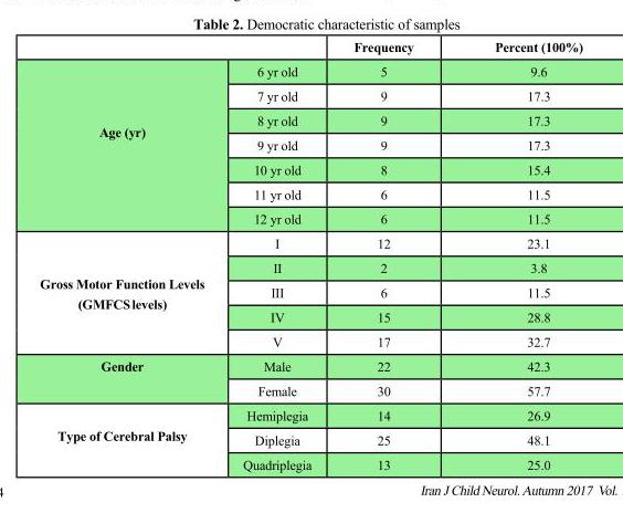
<table><thead><tr><td></td><td></td><td>Frequency</td><td>Percent (100%)</td></tr></thead><tbody><tr><td rowspan="7">Age (yr)</td><td>6 yr old</td><td>5</td><td>9.6</td></tr><tr><td>7 yr old</td><td>9</td><td>17.3</td></tr><tr><td>8 yr old</td><td>9</td><td>17.3</td></tr><tr><td>9 yr old</td><td>9</td><td>17.3</td></tr><tr><td>10 yr old</td><td>8</td><td>15.4</td></tr><tr><td>11 yr old</td><td>6</td><td>11.5</td></tr><tr><td>12 yr old</td><td>6</td><td>11.5</td></tr><tr><td rowspan="5">Gross Motor Function Levels (GMFCS levels)</td><td>I</td><td>12</td><td>23.1</td></tr><tr><td>II</td><td>2</td><td>3.8</td></tr><tr><td>III</td><td>6</td><td>11.5</td></tr><tr><td>IV</td><td>15</td><td>28.8</td></tr><tr><td>V</td><td>17</td><td>32.7</td></tr><tr><td rowspan="2">Gender</td><td>Male</td><td>22</td><td>42.3</td></tr><tr><td>Female</td><td>30</td><td>57.7</td></tr><tr><td rowspan="3">Type of Cerebral Palsy</td><td>Hemiplegia</td><td>14</td><td>26.9</td></tr><tr><td>Diplegia</td><td>25</td><td>48.1</td></tr><tr><td>Quadriplegia</td><td>13</td><td>25.0</td></tr></tbody></table>